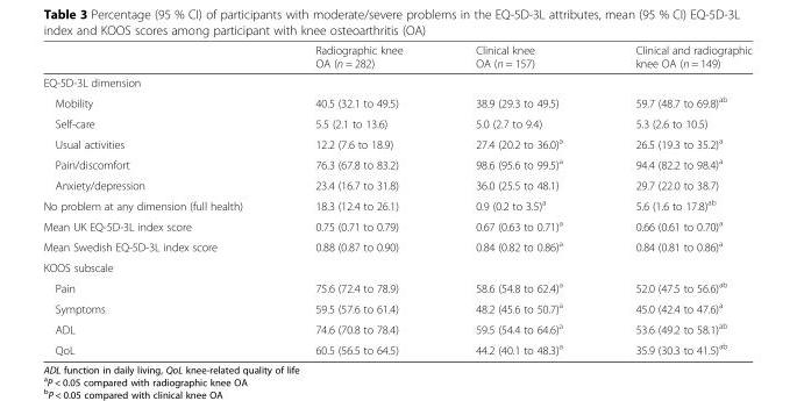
<table><thead><tr><td></td><td>Radiographic knee OA (n = 282)</td><td>Clinical knee OA (n = 157)</td><td>Clinical and radiographic knee OA (n = 149)</td></tr></thead><tbody><tr><td colspan="4">EQ-5D-3L dimension</td></tr><tr><td>Mobility</td><td>40.5 (32.1 to 49.5)</td><td>38.9 (29.3 to 49.5)</td><td>59.7 (48.7 to 69.8)<sup>ab</sup></td></tr><tr><td>Self-care</td><td>5.5 (2.1 to 13.6)</td><td>5.0 (2.7 to 9.4)</td><td>5.3 (2.6 to 10.5)</td></tr><tr><td>Usual activities</td><td>12.2 (7.6 to 18.9)</td><td>27.4 (20.2 to 36.0)<sup>a</sup></td><td>26.5 (19.3 to 35.2)<sup>a</sup></td></tr><tr><td>Pain/discomfort</td><td>76.3 (67.8 to 83.2)</td><td>98.6 (95.6 to 99.5)<sup>a</sup></td><td>94.4 (82.2 to 98.4)<sup>a</sup></td></tr><tr><td>Anxiety/depression</td><td>23.4 (16.7 to 31.8)</td><td>36.0 (25.5 to 48.1)</td><td>29.7 (22.0 to 38.7)</td></tr><tr><td>No problem at any dimension (full health)</td><td>18.3 (12.4 to 26.1)</td><td>0.9 (0.2 to 3.5)<sup>a</sup></td><td>5.6 (1.6 to 17.8)<sup>ab</sup></td></tr><tr><td>Mean UK EQ-5D-3L index score</td><td>0.75 (0.71 to 0.79)</td><td>0.67 (0.63 to 0.71)<sup>a</sup></td><td>0.66 (0.61 to 0.70)<sup>a</sup></td></tr><tr><td>Mean Swedish EQ-5D-3L index score</td><td>0.88 (0.87 to 0.90)</td><td>0.84 (0.82 to 0.86)<sup>a</sup></td><td>0.84 (0.81 to 0.86)<sup>a</sup></td></tr><tr><td colspan="4">KOOS subscale</td></tr><tr><td>Pain</td><td>75.6 (72.4 to 78.9)</td><td>58.6 (54.8 to 62.4)<sup>a</sup></td><td>52.0 (47.5 to 56.6)<sup>ab</sup></td></tr><tr><td>Symptoms</td><td>59.5 (57.6 to 61.4)</td><td>48.2 (45.6 to 50.7)<sup>a</sup></td><td>45.0 (42.4 to 47.6)<sup>a</sup></td></tr><tr><td>ADL</td><td>74.6 (70.8 to 78.4)</td><td>59.5 (54.4 to 64.6)<sup>a</sup></td><td>53.6 (49.2 to 58.1)<sup>ab</sup></td></tr><tr><td>QoL</td><td>60.5 (56.5 to 64.5)</td><td>44.2 (40.1 to 48.3)<sup>a</sup></td><td>35.9 (30.3 to 41.5)<sup>ab</sup></td></tr></tbody></table>